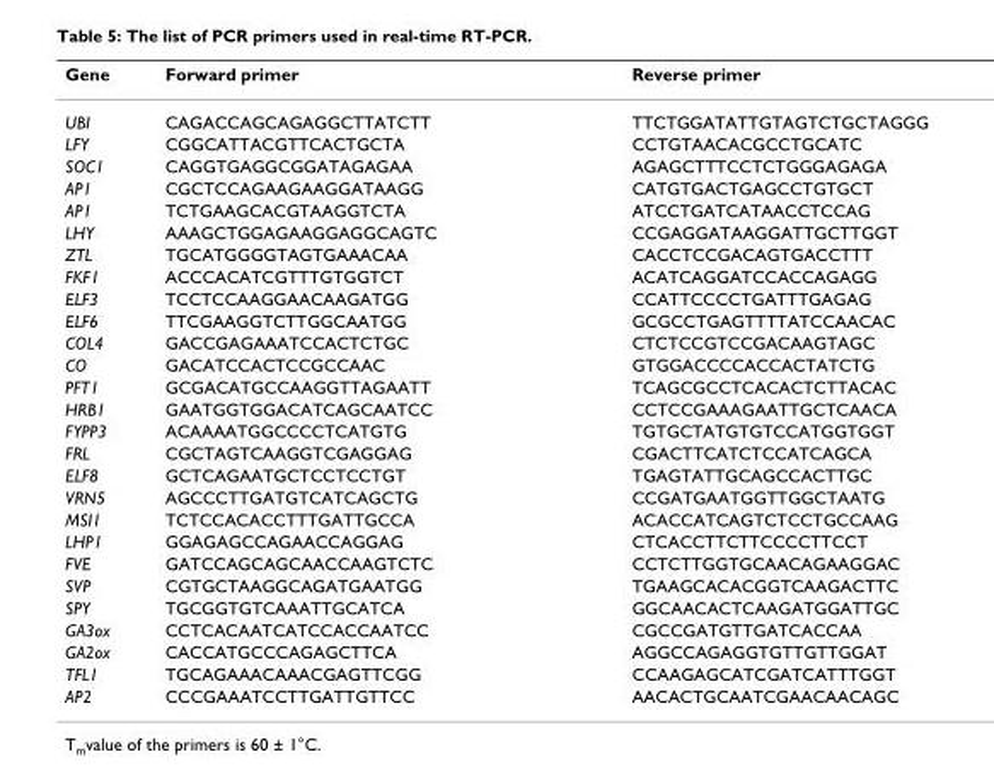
<table><thead><tr><td>Gene</td><td>Forward primer</td><td>Reverse primer</td></tr></thead><tbody><tr><td>UBI</td><td>CAGACCAGCAGAGGCTTATCTT</td><td>TTCTGGATATTGTAGTCTGCTAGGG</td></tr><tr><td>LFY</td><td>CGGCATTACGTTCACTGCTA</td><td>CCTGTAACACGCCTGCATC</td></tr><tr><td>SOC1</td><td>CAGGTGAGGCGGATAGAGAA</td><td>AGAGCTTTCCTCTGGGAGAGA</td></tr><tr><td>AP1</td><td>CGCTCCAGAAGAAGGATAAGG</td><td>CATGTGACTGAGCCTGTGCT</td></tr><tr><td>AP1</td><td>TCTGAAGCACGTAAGGTCTA</td><td>ATCCTGATCATAACCTCCAG</td></tr><tr><td>LHY</td><td>AAAGCTGGAGAAGGAGGCAGTC</td><td>CCGAGGATAAGGATTGCTTGGT</td></tr><tr><td>ZTL</td><td>TGCATGGGGTAGTGAAACAA</td><td>CACCTCCGACAGTGACCTTT</td></tr><tr><td>FKF1</td><td>ACCCACATCGTTTGTGGTCT</td><td>ACATCAGGATCCACCAGAGG</td></tr><tr><td>ELF3</td><td>TCCTCCAAGGAACAAGATGG</td><td>CCATTCCCCTGATTTGAGAG</td></tr><tr><td>ELF6</td><td>TTCGAAGGTCTTGGCAATGG</td><td>GCGCCTGAGTTTTATCCAACAC</td></tr><tr><td>COL4</td><td>GACCGAGAAATCCACTCTGC</td><td>CTCTCCGTCCGACAAGTAGC</td></tr><tr><td>CO</td><td>GACATCCACTCCGCCAAC</td><td>GTGGACCCCACCACTATCTG</td></tr><tr><td>PFT1</td><td>GCGACATGCCAAGGTTAGAATT</td><td>TCAGCGCCTCACACTCTTACAC</td></tr><tr><td>HRB1</td><td>GAATGGTGGACATCAGCAATCC</td><td>CCTCCGAAAGAATTGCTCAACA</td></tr><tr><td>FYPP3</td><td>ACAAAATGGCCCCTCATGTG</td><td>TGTGCTATGTGTCCATGGTGGT</td></tr><tr><td>FRL</td><td>CGCTAGTCAAGGTCGAGGAG</td><td>CGACTTCATCTCCATCAGCA</td></tr><tr><td>ELF8</td><td>GCTCAGAATGCTCCTCCTGT</td><td>TGAGTATTGCAGCCACTTGC</td></tr><tr><td>VRN5</td><td>AGCCCTTGATGTCATCAGCTG</td><td>CCGATGAATGGTTGGCTAATG</td></tr><tr><td>MSI1</td><td>TCTCCACACCTTTGATTGCCA</td><td>ACACCATCAGTCTCCTGCCAAG</td></tr><tr><td>LHP1</td><td>GGAGAGCCAGAACCAGGAG</td><td>CTCACCTTCTTCCCCTTCCT</td></tr><tr><td>FVE</td><td>GATCCAGCAGCAACCAAGTCTC</td><td>CCTCTTGGTGCAACAGAAGGAC</td></tr><tr><td>SVP</td><td>CGTGCTAAGGCAGATGAATGG</td><td>TGAAGCACACGGTCAAGACTTC</td></tr><tr><td>SPY</td><td>TGCGGTGTCAAATTGCATCA</td><td>GGCAACACTCAAGATGGATTGC</td></tr><tr><td>GA3ox</td><td>CCTCACAATCATCCACCAATCC</td><td>CGCCGATGTTGATCACCAA</td></tr><tr><td>GA2ox</td><td>CACCATGCCCAGAGCTTCA</td><td>AGGCCAGAGGTGTTGTTGGAT</td></tr><tr><td>TFL1</td><td>TGCAGAAACAAACGAGTTCGG</td><td>CCAAGAGCATCGATCATTTGGT</td></tr><tr><td>AP2</td><td>CCCGAAATCCTTGATTGTTCC</td><td>AACACTGCAATCGAACAACAGC</td></tr></tbody></table>